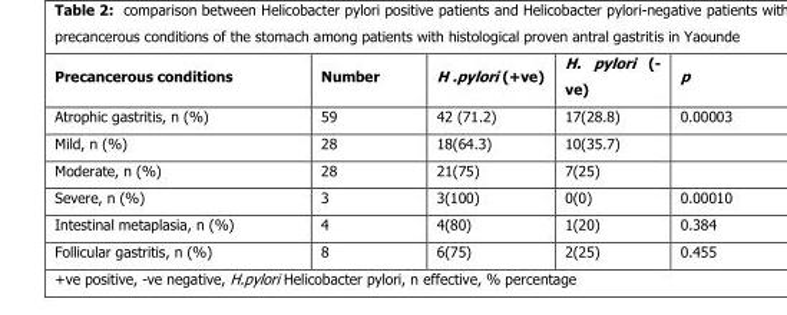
<table><thead><tr><td>Precancerous conditions</td><td>Number</td><td>H .pylori (+ve)</td><td>H. pylori (- ve)</td><td>p</td></tr></thead><tbody><tr><td>Atrophic gastritis, n (%)</td><td>59</td><td>42 (71.2)</td><td>17(28.8)</td><td>0.00003</td></tr><tr><td>Mild, n (%)</td><td>28</td><td>18(64.3)</td><td>10(35.7)</td><td></td></tr><tr><td>Moderate, n (%)</td><td>28</td><td>21(75)</td><td>7(25)</td><td></td></tr><tr><td>Severe, n (%)</td><td>3</td><td>3(100)</td><td>0(0)</td><td>0.00010</td></tr><tr><td>Intestinal metaplasia, n (%)</td><td>4</td><td>4(80)</td><td>1(20)</td><td>0.384</td></tr><tr><td>Follicular gastritis, n (%)</td><td>8</td><td>6(75)</td><td>2(25)</td><td>0.455</td></tr></tbody></table>